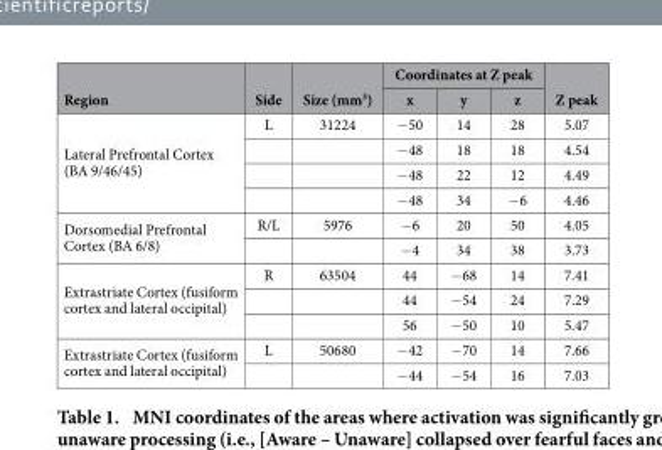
<table><thead><tr><td rowspan="2">Region</td><td rowspan="2">Side</td><td rowspan="2">Size (mm<sup>3</sup>)</td><td colspan="3">Coordinates at Z peak</td><td rowspan="2">Z peak</td></tr><tr><td>x</td><td>y</td><td>z</td></tr></thead><tbody><tr><td rowspan="4">Lateral Prefrontal Cortex (BA 9/46/45)</td><td>L</td><td>31224</td><td>− 50</td><td>14</td><td>28</td><td>5.07</td></tr><tr><td></td><td></td><td>− 48</td><td>18</td><td>18</td><td>4.54</td></tr><tr><td></td><td></td><td>− 48</td><td>22</td><td>12</td><td>4.49</td></tr><tr><td></td><td></td><td>− 48</td><td>34</td><td>− 6</td><td>4.46</td></tr><tr><td rowspan="2">Dorsomedial Prefrontal Cortex (BA 6/8)</td><td>R/L</td><td>5976</td><td>− 6</td><td>20</td><td>50</td><td>4.05</td></tr><tr><td></td><td></td><td>− 4</td><td>34</td><td>38</td><td>3.73</td></tr><tr><td rowspan="3">Extrastriate Cortex (fusiform cortex and lateral occipital)</td><td>R</td><td>63504</td><td>44</td><td>− 68</td><td>14</td><td>7.41</td></tr><tr><td></td><td></td><td>44</td><td>− 54</td><td>24</td><td>7.29</td></tr><tr><td></td><td></td><td>56</td><td>− 50</td><td>10</td><td>5.47</td></tr><tr><td rowspan="2">Extrastriate Cortex (fusiform cortex and lateral occipital)</td><td>L</td><td>50680</td><td>− 42</td><td>− 70</td><td>14</td><td>7.66</td></tr><tr><td></td><td></td><td>− 44</td><td>− 54</td><td>16</td><td>7.03</td></tr></tbody></table>